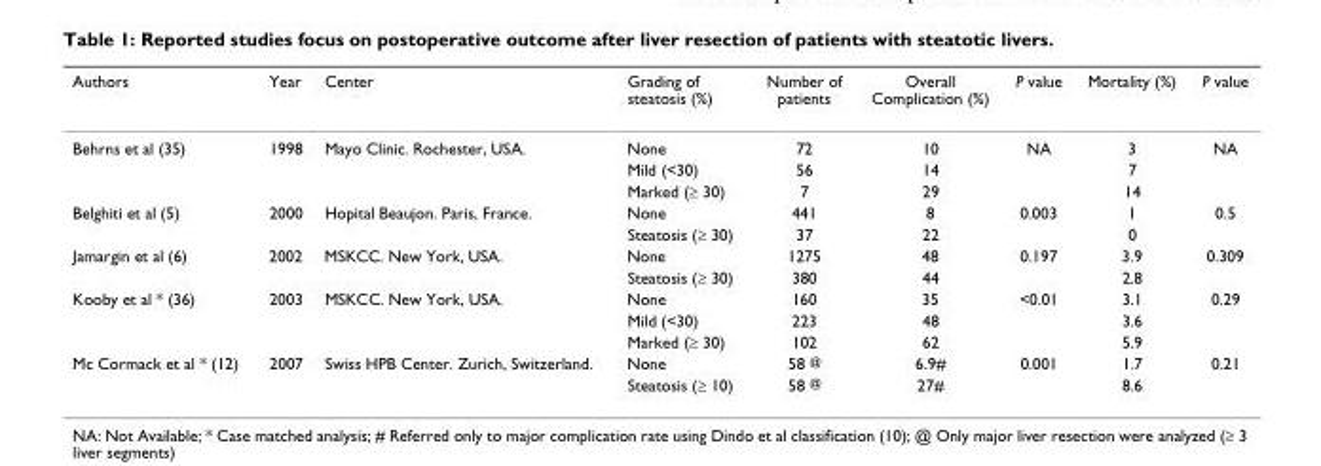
<table><thead><tr><td>Authors</td><td>Year</td><td>Center</td><td>Grading of steatosis (%)</td><td>Number of patients</td><td>Overall Complication (%)</td><td>P value</td><td>Mortality (%)</td><td>P value</td></tr></thead><tbody><tr><td rowspan="3">Behrns et al (35)</td><td>1998</td><td>Mayo Clinic. Rochester, USA.</td><td>None</td><td>72</td><td>10</td><td>NA</td><td>3</td><td>NA</td></tr><tr><td></td><td></td><td>Mild (&lt;30)</td><td>56</td><td>14</td><td></td><td>7</td><td></td></tr><tr><td></td><td></td><td>Marked (≥ 30)</td><td>7</td><td>29</td><td></td><td>14</td><td></td></tr><tr><td rowspan="2">Belghiti et al (5)</td><td>2000</td><td>Hopital Beaujon. Paris, France.</td><td>None</td><td>441</td><td>8</td><td>0.003</td><td>1</td><td>0.5</td></tr><tr><td></td><td></td><td>Steatosis (≥ 30)</td><td>37</td><td>22</td><td></td><td>0</td><td></td></tr><tr><td rowspan="2">Jamargin et al (6)</td><td>2002</td><td>MSKCC. New York, USA.</td><td>None</td><td>1275</td><td>48</td><td>0.197</td><td>3.9</td><td>0.309</td></tr><tr><td></td><td></td><td>Steatosis (≥ 30)</td><td>380</td><td>44</td><td></td><td>2.8</td><td></td></tr><tr><td rowspan="3">Kooby et al * (36)</td><td>2003</td><td>MSKCC. New York, USA.</td><td>None</td><td>160</td><td>35</td><td>&lt;0.01</td><td>3.1</td><td>0.29</td></tr><tr><td></td><td></td><td>Mild (&lt;30)</td><td>223</td><td>48</td><td></td><td>3.6</td><td></td></tr><tr><td></td><td></td><td>Marked (≥ 30)</td><td>102</td><td>62</td><td></td><td>5.9</td><td></td></tr><tr><td rowspan="2">Mc Cormack et al * (12)</td><td>2007</td><td>Swiss HPB Center. Zurich, Switzerland.</td><td>None</td><td>58 <sup>@</sup></td><td>6.9#</td><td>0.001</td><td>1.7</td><td>0.21</td></tr><tr><td></td><td></td><td>Steatosis (≥ 10)</td><td>58 <sup>@</sup></td><td>27#</td><td></td><td>8.6</td><td></td></tr></tbody></table>